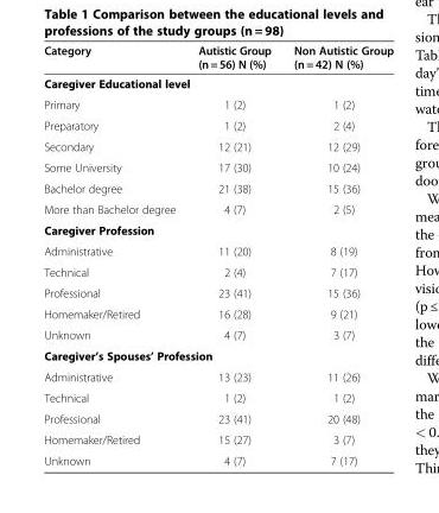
<table><thead><tr><td>Category</td><td>Autistic Group (n = 56) N (%)</td><td>Non Autistic Group (n = 42) N (%)</td></tr></thead><tbody><tr><td colspan="3">Caregiver Educational level</td></tr><tr><td>Primary</td><td>1 (2)</td><td>1 (2)</td></tr><tr><td>Preparatory</td><td>1 (2)</td><td>2 (4)</td></tr><tr><td>Secondary</td><td>12 (21)</td><td>12 (29)</td></tr><tr><td>Some University</td><td>17 (30)</td><td>10 (24)</td></tr><tr><td>Bachelor degree</td><td>21 (38)</td><td>15 (36)</td></tr><tr><td>More than Bachelor degree</td><td>4 (7)</td><td>2 (5)</td></tr><tr><td colspan="3">Caregiver Profession</td></tr><tr><td>Administrative</td><td>11 (20)</td><td>8 (19)</td></tr><tr><td>Technical</td><td>2 (4)</td><td>7 (17)</td></tr><tr><td>Professional</td><td>23 (41)</td><td>15 (36)</td></tr><tr><td>Homemaker/Retired</td><td>16 (28)</td><td>9 (21)</td></tr><tr><td>Unknown</td><td>4 (7)</td><td>3 (7)</td></tr><tr><td colspan="3">Caregiver’s Spouses’ Profession</td></tr><tr><td>Administrative</td><td>13 (23)</td><td>11 (26)</td></tr><tr><td>Technical</td><td>1 (2)</td><td>1 (2)</td></tr><tr><td>Professional</td><td>23 (41)</td><td>20 (48)</td></tr><tr><td>Homemaker/Retired</td><td>15 (27)</td><td>3 (7)</td></tr><tr><td>Unknown</td><td>4 (7)</td><td>7 (17)</td></tr></tbody></table>